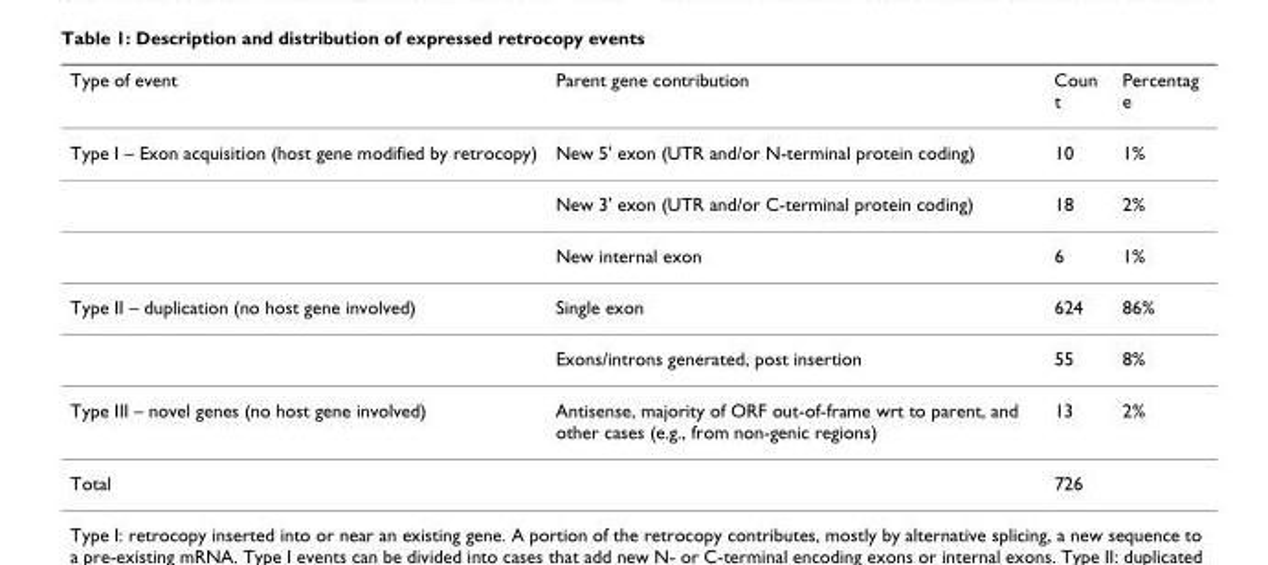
<table><thead><tr><td>Type of event</td><td>Parent gene contribution</td><td>Coun t</td><td>Percentag e</td></tr></thead><tbody><tr><td rowspan="3">Type I – Exon acquisition (host gene modified by retrocopy)</td><td>New 5&#x27; exon (UTR and/or N-terminal protein coding)</td><td>10</td><td>1%</td></tr><tr><td>New 3&#x27; exon (UTR and/or C-terminal protein coding)</td><td>18</td><td>2%</td></tr><tr><td>New internal exon</td><td>6</td><td>1%</td></tr><tr><td rowspan="2">Type II – duplication (no host gene involved)</td><td>Single exon</td><td>624</td><td>86%</td></tr><tr><td>Exons/introns generated, post insertion</td><td>55</td><td>8%</td></tr><tr><td>Type III – novel genes (no host gene involved)</td><td>Antisense, majority of ORF out-of-frame wrt to parent, and other cases (e.g., from non-genic regions)</td><td>13</td><td>2%</td></tr><tr><td>Total</td><td></td><td>726</td><td></td></tr></tbody></table>